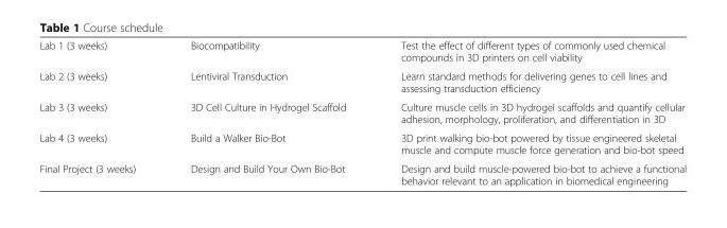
<table><tbody><tr><td>Lab 1 (3 weeks)</td><td>Biocompatibility</td><td>Test the effect of different types of commonly used chemical compounds in 3D printers on cell viability</td></tr><tr><td>Lab 2 (3 weeks)</td><td>Lentiviral Transduction</td><td>Learn standard methods for delivering genes to cell lines and assessing transduction efficiency</td></tr><tr><td>Lab 3 (3 weeks)</td><td>3D Cell Culture in Hydrogel Scaffold</td><td>Culture muscle cells in 3D hydrogel scaffolds and quantify cellular adhesion, morphology, proliferation, and differentiation in 3D</td></tr><tr><td>Lab 4 (3 weeks)</td><td>Build a Walker Bio-Bot</td><td>3D print walking bio-bot powered by tissue engineered skeletal muscle and compute muscle force generation and bio-bot speed</td></tr><tr><td>Final Project (3 weeks)</td><td>Design and Build Your Own Bio-Bot</td><td>Design and build muscle-powered bio-bot to achieve a functional behavior relevant to an application in biomedical engineering</td></tr></tbody></table>